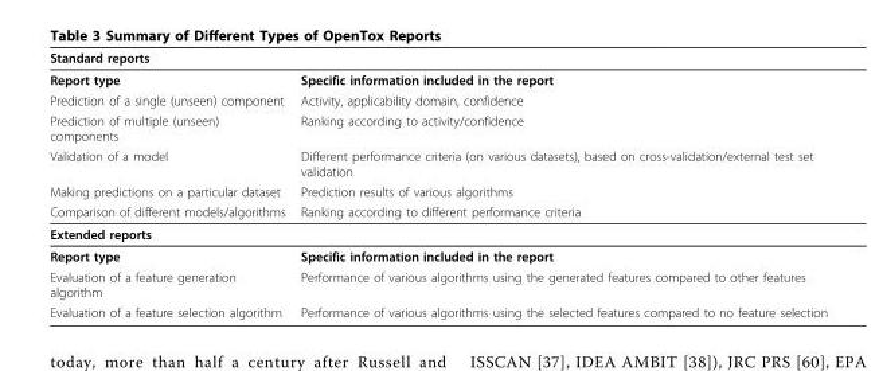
<table><thead><tr><td colspan="2">Standard reports</td></tr><tr><td>Report type</td><td>Specific information included in the report</td></tr></thead><tbody><tr><td>Prediction of a single (unseen) component</td><td>Activity, applicability domain, confidence</td></tr><tr><td>Prediction of multiple (unseen) components</td><td>Ranking according to activity/confidence</td></tr><tr><td>Validation of a model</td><td>Different performance criteria (on various datasets), based on cross-validation/external test set validation</td></tr><tr><td>Making predictions on a particular dataset</td><td>Prediction results of various algorithms</td></tr><tr><td>Comparison of different models/algorithms</td><td>Ranking according to different performance criteria</td></tr><tr><td colspan="2">Extended reports</td></tr><tr><td>Report type</td><td>Specific information included in the report</td></tr><tr><td>Evaluation of a feature generation algorithm</td><td>Performance of various algorithms using the generated features compared to other features</td></tr><tr><td>Evaluation of a feature selection algorithm</td><td>Performance of various algorithms using the selected features compared to no feature selection</td></tr></tbody></table>